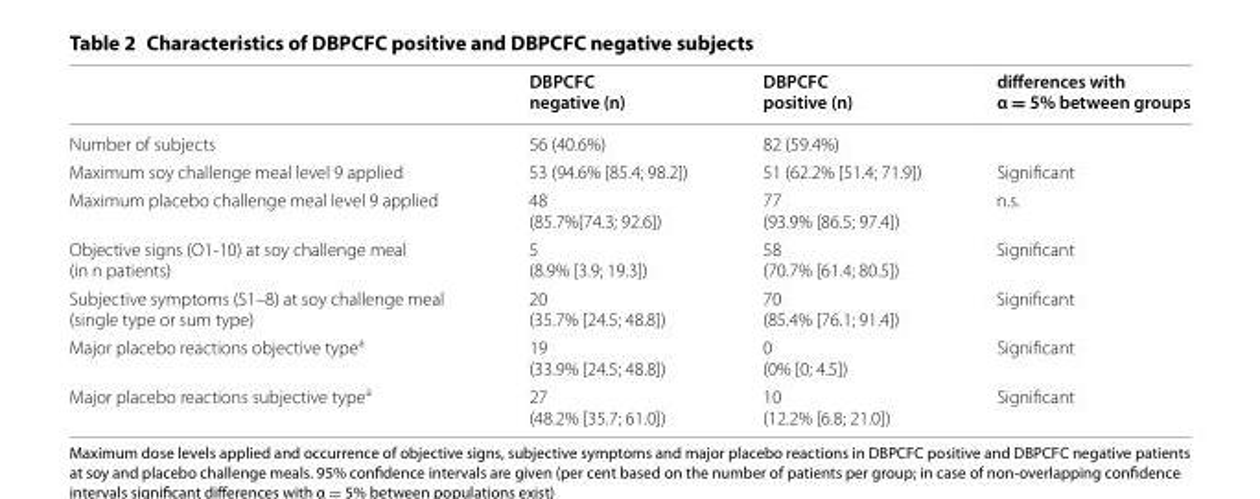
<table><thead><tr><td></td><td>DBPCFC negative (n)</td><td>DBPCFC positive (n)</td><td>differences with α = 5% between groups</td></tr></thead><tbody><tr><td>Number of subjects</td><td>56 (40.6%)</td><td>82 (59.4%)</td><td></td></tr><tr><td>Maximum soy challenge meal level 9 applied</td><td>53 (94.6% [85.4; 98.2])</td><td>51 (62.2% [51.4; 71.9])</td><td>Significant</td></tr><tr><td>Maximum placebo challenge meal level 9 applied</td><td>48 (85.7%[74.3; 92.6])</td><td>77 (93.9% [86.5; 97.4])</td><td>n.s.</td></tr><tr><td>Objective signs (O1‑10) at soy challenge meal (in n patients)</td><td>5 (8.9% [3.9; 19.3])</td><td>58 (70.7% [61.4; 80.5])</td><td>Significant</td></tr><tr><td>Subjective symptoms (S1–8) at soy challenge meal (single type or sum type)</td><td>20 (35.7% [24.5; 48.8])</td><td>70 (85.4% [76.1; 91.4])</td><td>Significant</td></tr><tr><td>Major placebo reactions objective type<sup>a</sup></td><td>19 (33.9% [24.5; 48.8])</td><td>0 (0% [0; 4.5])</td><td>Significant</td></tr><tr><td>Major placebo reactions subjective type<sup>a</sup></td><td>27 (48.2% [35.7; 61.0])</td><td>10 (12.2% [6.8; 21.0])</td><td>Significant</td></tr></tbody></table>